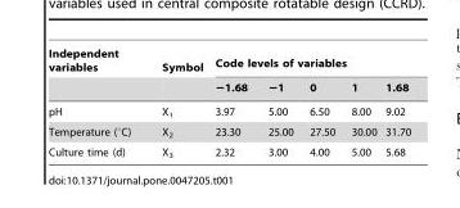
<table><thead><tr><td rowspan="2">Independent variables</td><td rowspan="2">Symbol</td><td colspan="5">Code levels of variables</td></tr><tr><td>−1.68</td><td>−1</td><td>0</td><td>1</td><td>1.68</td></tr></thead><tbody><tr><td>pH</td><td>X<sub>1</sub></td><td>3.97</td><td>5.00</td><td>6.50</td><td>8.00</td><td>9.02</td></tr><tr><td>Temperature (°C)</td><td>X<sub>2</sub></td><td>23.30</td><td>25.00</td><td>27.50</td><td>30.00</td><td>31.70</td></tr><tr><td>Culture time (d)</td><td>X<sub>3</sub></td><td>2.32</td><td>3.00</td><td>4.00</td><td>5.00</td><td>5.68</td></tr></tbody></table>